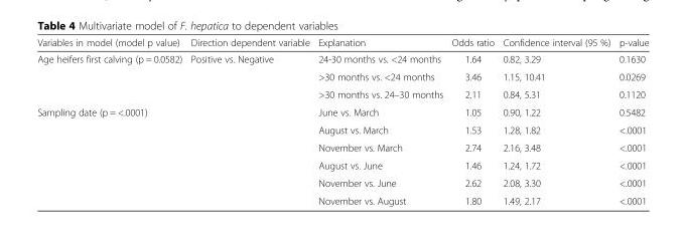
<table><thead><tr><td>Variables in model (model p value)</td><td>Direction dependent variable</td><td>Explanation</td><td>Odds ratio</td><td>Confidence interval (95 %)</td><td>p-value</td></tr></thead><tbody><tr><td rowspan="3">Age heifers first calving (p = 0.0582)</td><td rowspan="3">Positive vs. Negative</td><td>24-30 months vs. &lt;24 months</td><td>1.64</td><td>0.82, 3.29</td><td>0.1630</td></tr><tr><td>&gt;30 months vs. &lt;24 months</td><td>3.46</td><td>1.15, 10.41</td><td>0.0269</td></tr><tr><td>&gt;30 months vs. 24–30 months</td><td>2.11</td><td>0.84, 5.31</td><td>0.1120</td></tr><tr><td rowspan="6">Sampling date (p = &lt;.0001)</td><td rowspan="6"></td><td>June vs. March</td><td>1.05</td><td>0.90, 1.22</td><td>0.5482</td></tr><tr><td>August vs. March</td><td>1.53</td><td>1.28, 1.82</td><td>&lt;.0001</td></tr><tr><td>November vs. March</td><td>2.74</td><td>2.16, 3.48</td><td>&lt;.0001</td></tr><tr><td>August vs. June</td><td>1.46</td><td>1.24, 1.72</td><td>&lt;.0001</td></tr><tr><td>November vs. June</td><td>2.62</td><td>2.08, 3.30</td><td>&lt;.0001</td></tr><tr><td>November vs. August</td><td>1.80</td><td>1.49, 2.17</td><td>&lt;.0001</td></tr></tbody></table>